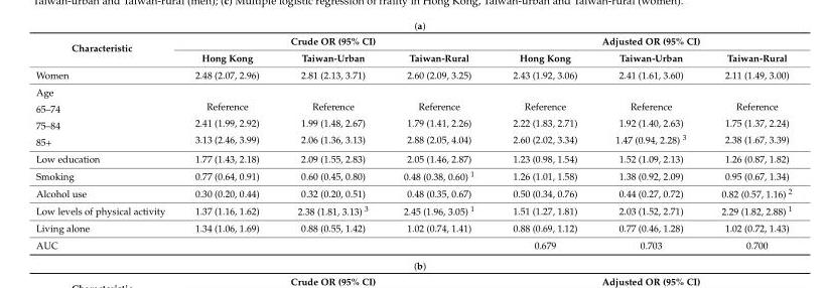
<table><thead><tr><td rowspan="2">Characteristic</td><td colspan="3">Crude OR (95% CI)</td><td colspan="3">Adjusted OR (95% CI)</td></tr><tr><td>Hong Kong</td><td>Taiwan-Urban</td><td>Taiwan-Rural</td><td>Hong Kong</td><td>Taiwan-Urban</td><td>Taiwan-Rural</td></tr></thead><tbody><tr><td>Women</td><td>2.48 (2.07, 2.96)</td><td>2.81 (2.13, 3.71)</td><td>2.60 (2.09, 3.25)</td><td>2.43 (1.92, 3.06)</td><td>2.41 (1.61, 3.60)</td><td>2.11 (1.49, 3.00)</td></tr><tr><td colspan="7">Age</td></tr><tr><td>65–74</td><td>Reference</td><td>Reference</td><td>Reference</td><td>Reference</td><td>Reference</td><td>Reference</td></tr><tr><td>75–84</td><td>2.41 (1.99, 2.92)</td><td>1.99 (1.48, 2.67)</td><td>1.79 (1.41, 2.26)</td><td>2.22 (1.83, 2.71)</td><td>1.92 (1.40, 2.63)</td><td>1.75 (1.37, 2.24)</td></tr><tr><td>85+</td><td>3.13 (2.46, 3.99)</td><td>2.06 (1.36, 3.13)</td><td>2.88 (2.05, 4.04)</td><td>2.60 (2.02, 3.34)</td><td>1.47 (0.94, 2.28) <sup>3</sup></td><td>2.38 (1.67, 3.39)</td></tr><tr><td>Low education</td><td>1.77 (1.43, 2.18)</td><td>2.09 (1.55, 2.83)</td><td>2.05 (1.46, 2.87)</td><td>1.23 (0.98, 1.54)</td><td>1.52 (1.09, 2.13)</td><td>1.26 (0.87, 1.82)</td></tr><tr><td>Smoking</td><td>0.77 (0.64, 0.91)</td><td>0.60 (0.45, 0.80)</td><td>0.48 (0.38, 0.60) <sup>1</sup></td><td>1.26 (1.01, 1.58)</td><td>1.38 (0.92, 2.09)</td><td>0.95 (0.67, 1.34)</td></tr><tr><td>Alcohol use</td><td>0.30 (0.20, 0.44)</td><td>0.32 (0.20, 0.51)</td><td>0.48 (0.35, 0.67)</td><td>0.50 (0.34, 0.76)</td><td>0.44 (0.27, 0.72)</td><td>0.82 (0.57, 1.16) <sup>2</sup></td></tr><tr><td>Low levels of physical activity</td><td>1.37 (1.16, 1.62)</td><td>2.38 (1.81, 3.13) <sup>3</sup></td><td>2.45 (1.96, 3.05) <sup>1</sup></td><td>1.51 (1.27, 1.81)</td><td>2.03 (1.52, 2.71)</td><td>2.29 (1.82, 2.88) <sup>1</sup></td></tr><tr><td>Living alone</td><td>1.34 (1.06, 1.69)</td><td>0.88 (0.55, 1.42)</td><td>1.02 (0.74, 1.41)</td><td>0.88 (0.69, 1.12)</td><td>0.77 (0.46, 1.28)</td><td>1.02 (0.72, 1.43)</td></tr><tr><td>AUC</td><td></td><td></td><td></td><td>0.679</td><td>0.703</td><td>0.700</td></tr></tbody></table>